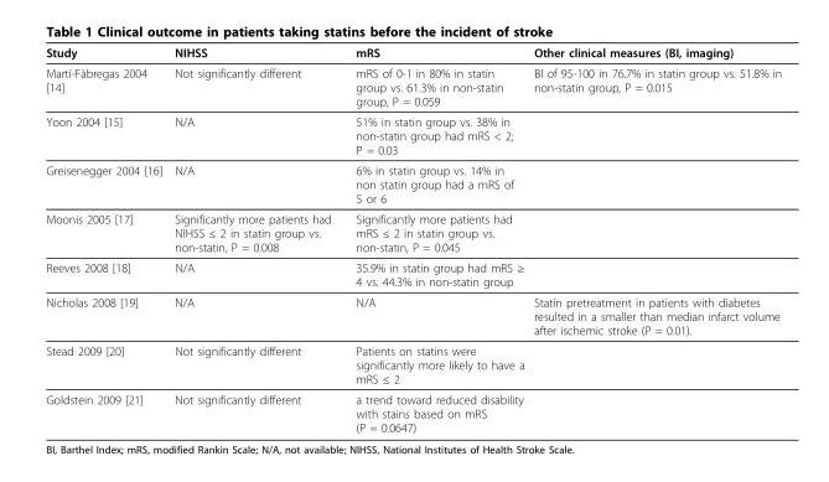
<table><thead><tr><td>Study</td><td>NIHSS</td><td>mRS</td><td>Other clinical measures (BI, imaging)</td></tr></thead><tbody><tr><td>Martí-Fàbregas 2004 [14]</td><td>Not significantly different</td><td>mRS of 0-1 in 80% in statin group vs. 61.3% in non-statin group, P = 0.059</td><td>BI of 95-100 in 76.7% in statin group vs. 51.8% in non-statin group, P = 0.015</td></tr><tr><td>Yoon 2004 [15]</td><td>N/A</td><td>51% in statin group vs. 38% in non-statin group had mRS &lt; 2; P = 0.03</td><td></td></tr><tr><td>Greisenegger 2004 [16]</td><td>N/A</td><td>6% in statin group vs. 14% in non statin group had a mRS of 5 or 6</td><td></td></tr><tr><td>Moonis 2005 [17]</td><td>Significantly more patients had NIHSS ≤ 2 in statin group vs. non-statin, P = 0.008</td><td>Significantly more patients had mRS ≤ 2 in statin group vs. non-statin, P = 0.045</td><td></td></tr><tr><td>Reeves 2008 [18]</td><td>N/A</td><td>35.9% in statin group had mRS ≥ 4 vs. 44.3% in non-statin group</td><td></td></tr><tr><td>Nicholas 2008 [19]</td><td>N/A</td><td>N/A</td><td>Statin pretreatment in patients with diabetes resulted in a smaller than median infarct volume after ischemic stroke (P = 0.01).</td></tr><tr><td>Stead 2009 [20]</td><td>Not significantly different</td><td>Patients on statins were significantly more likely to have a mRS ≤ 2</td><td></td></tr><tr><td>Goldstein 2009 [21]</td><td>Not significantly different</td><td>a trend toward reduced disability with stains based on mRS (P = 0.0647)</td><td></td></tr></tbody></table>